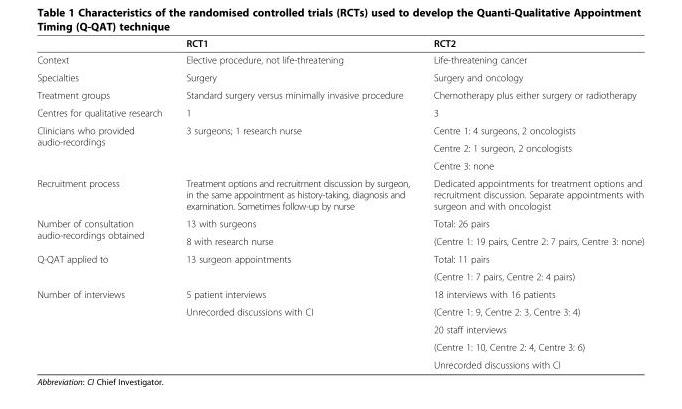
<table><thead><tr><td></td><td>RCT1</td><td>RCT2</td></tr></thead><tbody><tr><td>Context</td><td>Elective procedure, not life-threatening</td><td>Life-threatening cancer</td></tr><tr><td>Specialties</td><td>Surgery</td><td>Surgery and oncology</td></tr><tr><td>Treatment groups</td><td>Standard surgery versus minimally invasive procedure</td><td>Chemotherapy plus either surgery or radiotherapy</td></tr><tr><td>Centres for qualitative research</td><td>1</td><td>3</td></tr><tr><td rowspan="3">Clinicians who provided audio-recordings</td><td rowspan="3">3 surgeons; 1 research nurse</td><td>Centre 1: 4 surgeons, 2 oncologists</td></tr><tr><td>Centre 2: 1 surgeon, 2 oncologists</td></tr><tr><td>Centre 3: none</td></tr><tr><td>Recruitment process</td><td>Treatment options and recruitment discussion by surgeon, in the same appointment as history-taking, diagnosis and examination. Sometimes follow-up by nurse</td><td>Dedicated appointments for treatment options and recruitment discussion. Separate appointments with surgeon and with oncologist</td></tr><tr><td rowspan="2">Number of consultation audio-recordings obtained</td><td>13 with surgeons</td><td>Total: 26 pairs</td></tr><tr><td>8 with research nurse</td><td>(Centre 1: 19 pairs, Centre 2: 7 pairs, Centre 3: none)</td></tr><tr><td rowspan="2">Q-QAT applied to</td><td rowspan="2">13 surgeon appointments</td><td>Total: 11 pairs</td></tr><tr><td>(Centre 1: 7 pairs, Centre 2: 4 pairs)</td></tr><tr><td rowspan="5">Number of interviews</td><td>5 patient interviews</td><td>18 interviews with 16 patients</td></tr><tr><td rowspan="4">Unrecorded discussions with CI</td><td>(Centre 1: 9, Centre 2: 3, Centre 3: 4)</td></tr><tr><td>20 staff interviews</td></tr><tr><td>(Centre 1: 10, Centre 2: 4, Centre 3: 6)</td></tr><tr><td>Unrecorded discussions with CI</td></tr></tbody></table>